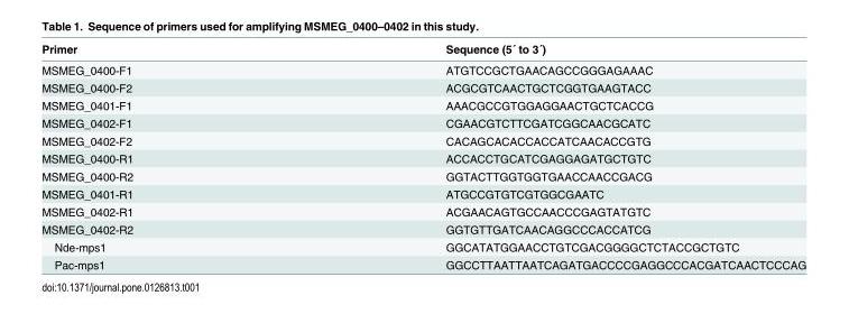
<table><thead><tr><td>Primer</td><td>Sequence (5´ to 3´)</td></tr></thead><tbody><tr><td>MSMEG_0400-F1</td><td>ATGTCCGCTGAACAGCCGGGAGAAAC</td></tr><tr><td>MSMEG_0400-F2</td><td>ACGCGTCAACTGCTCGGTGAAGTACC</td></tr><tr><td>MSMEG_0401-F1</td><td>AAACGCCGTGGAGGAACTGCTCACCG</td></tr><tr><td>MSMEG_0402-F1</td><td>CGAACGTCTTCGATCGGCAACGCATC</td></tr><tr><td>MSMEG_0402-F2</td><td>CACAGCACACCACCATCAACACCGTG</td></tr><tr><td>MSMEG_0400-R1</td><td>ACCACCTGCATCGAGGAGATGCTGTC</td></tr><tr><td>MSMEG_0400-R2</td><td>GGTACTTGGTGGTGAACCAACCGACG</td></tr><tr><td>MSMEG_0401-R1</td><td>ATGCCGTGTCGTGGCGAATC</td></tr><tr><td>MSMEG_0402-R1</td><td>ACGAACAGTGCCAACCCGAGTATGTC</td></tr><tr><td>MSMEG_0402-R2</td><td>GGTGTTGATCAACAGGCCCACCATCG</td></tr><tr><td>Nde-mps1</td><td>GGCATATGGAACCTGTCGACGGGGCTCTACCGCTGTC</td></tr><tr><td>Pac-mps1</td><td>GGCCTTAATTAATCAGATGACCCCGAGGCCCACGATCAACTCCCAG</td></tr></tbody></table>